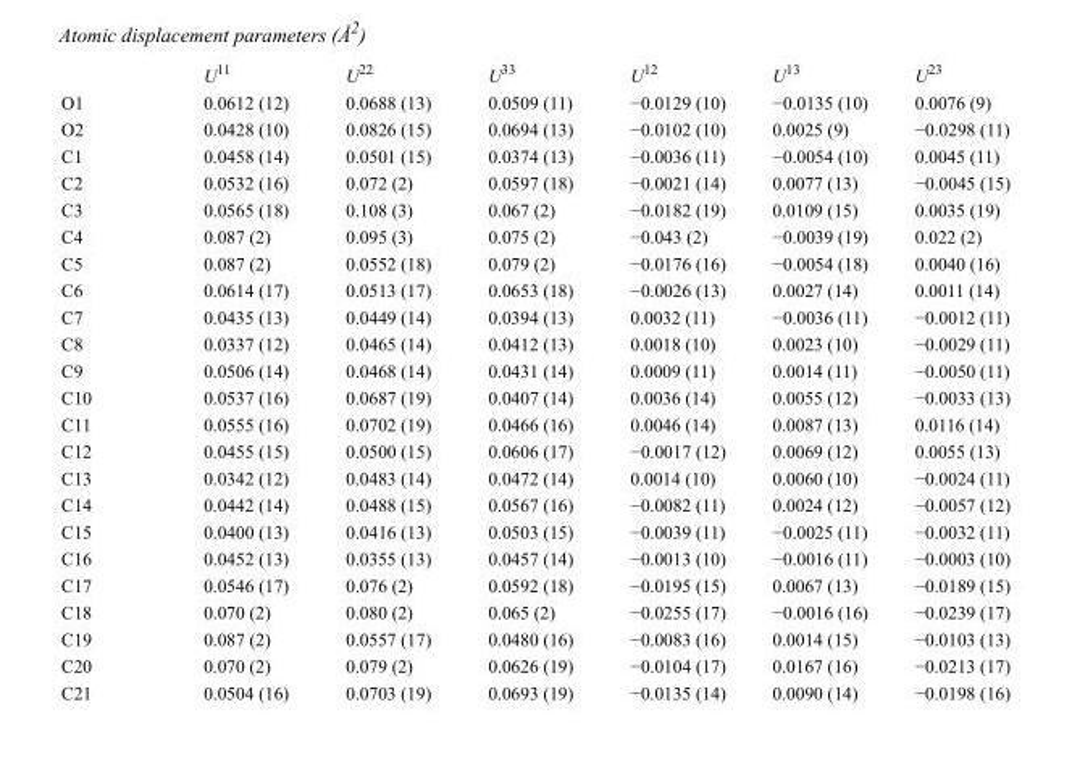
<table><thead><tr><td></td><td>U<sup>11</sup></td><td>U<sup>22</sup></td><td>U<sup>33</sup></td><td>U<sup>12</sup></td><td>U<sup>13</sup></td><td>U<sup>23</sup></td></tr></thead><tbody><tr><td>O1</td><td>0.0612 (12)</td><td>0.0688 (13)</td><td>0.0509 (11)</td><td>−0.0129 (10)</td><td>−0.0135 (10)</td><td>0.0076 (9)</td></tr><tr><td>O2</td><td>0.0428 (10)</td><td>0.0826 (15)</td><td>0.0694 (13)</td><td>−0.0102 (10)</td><td>0.0025 (9)</td><td>−0.0298 (11)</td></tr><tr><td>C1</td><td>0.0458 (14)</td><td>0.0501 (15)</td><td>0.0374 (13)</td><td>−0.0036 (11)</td><td>−0.0054 (10)</td><td>0.0045 (11)</td></tr><tr><td>C2</td><td>0.0532 (16)</td><td>0.072 (2)</td><td>0.0597 (18)</td><td>−0.0021 (14)</td><td>0.0077 (13)</td><td>−0.0045 (15)</td></tr><tr><td>C3</td><td>0.0565 (18)</td><td>0.108 (3)</td><td>0.067 (2)</td><td>−0.0182 (19)</td><td>0.0109 (15)</td><td>0.0035 (19)</td></tr><tr><td>C4</td><td>0.087 (2)</td><td>0.095 (3)</td><td>0.075 (2)</td><td>−0.043 (2)</td><td>−0.0039 (19)</td><td>0.022 (2)</td></tr><tr><td>C5</td><td>0.087 (2)</td><td>0.0552 (18)</td><td>0.079 (2)</td><td>−0.0176 (16)</td><td>−0.0054 (18)</td><td>0.0040 (16)</td></tr><tr><td>C6</td><td>0.0614 (17)</td><td>0.0513 (17)</td><td>0.0653 (18)</td><td>−0.0026 (13)</td><td>0.0027 (14)</td><td>0.0011 (14)</td></tr><tr><td>C7</td><td>0.0435 (13)</td><td>0.0449 (14)</td><td>0.0394 (13)</td><td>0.0032 (11)</td><td>−0.0036 (11)</td><td>−0.0012 (11)</td></tr><tr><td>C8</td><td>0.0337 (12)</td><td>0.0465 (14)</td><td>0.0412 (13)</td><td>0.0018 (10)</td><td>0.0023 (10)</td><td>−0.0029 (11)</td></tr><tr><td>C9</td><td>0.0506 (14)</td><td>0.0468 (14)</td><td>0.0431 (14)</td><td>0.0009 (11)</td><td>0.0014 (11)</td><td>−0.0050 (11)</td></tr><tr><td>C10</td><td>0.0537 (16)</td><td>0.0687 (19)</td><td>0.0407 (14)</td><td>0.0036 (14)</td><td>0.0055 (12)</td><td>−0.0033 (13)</td></tr><tr><td>C11</td><td>0.0555 (16)</td><td>0.0702 (19)</td><td>0.0466 (16)</td><td>0.0046 (14)</td><td>0.0087 (13)</td><td>0.0116 (14)</td></tr><tr><td>C12</td><td>0.0455 (15)</td><td>0.0500 (15)</td><td>0.0606 (17)</td><td>−0.0017 (12)</td><td>0.0069 (12)</td><td>0.0055 (13)</td></tr><tr><td>C13</td><td>0.0342 (12)</td><td>0.0483 (14)</td><td>0.0472 (14)</td><td>0.0014 (10)</td><td>0.0060 (10)</td><td>−0.0024 (11)</td></tr><tr><td>C14</td><td>0.0442 (14)</td><td>0.0488 (15)</td><td>0.0567 (16)</td><td>−0.0082 (11)</td><td>0.0024 (12)</td><td>−0.0057 (12)</td></tr><tr><td>C15</td><td>0.0400 (13)</td><td>0.0416 (13)</td><td>0.0503 (15)</td><td>−0.0039 (11)</td><td>−0.0025 (11)</td><td>−0.0032 (11)</td></tr><tr><td>C16</td><td>0.0452 (13)</td><td>0.0355 (13)</td><td>0.0457 (14)</td><td>−0.0013 (10)</td><td>−0.0016 (11)</td><td>−0.0003 (10)</td></tr><tr><td>C17</td><td>0.0546 (17)</td><td>0.076 (2)</td><td>0.0592 (18)</td><td>−0.0195 (15)</td><td>0.0067 (13)</td><td>−0.0189 (15)</td></tr><tr><td>C18</td><td>0.070 (2)</td><td>0.080 (2)</td><td>0.065 (2)</td><td>−0.0255 (17)</td><td>−0.0016 (16)</td><td>−0.0239 (17)</td></tr><tr><td>C19</td><td>0.087 (2)</td><td>0.0557 (17)</td><td>0.0480 (16)</td><td>−0.0083 (16)</td><td>0.0014 (15)</td><td>−0.0103 (13)</td></tr><tr><td>C20</td><td>0.070 (2)</td><td>0.079 (2)</td><td>0.0626 (19)</td><td>−0.0104 (17)</td><td>0.0167 (16)</td><td>−0.0213 (17)</td></tr><tr><td>C21</td><td>0.0504 (16)</td><td>0.0703 (19)</td><td>0.0693 (19)</td><td>−0.0135 (14)</td><td>0.0090 (14)</td><td>−0.0198 (16)</td></tr></tbody></table>